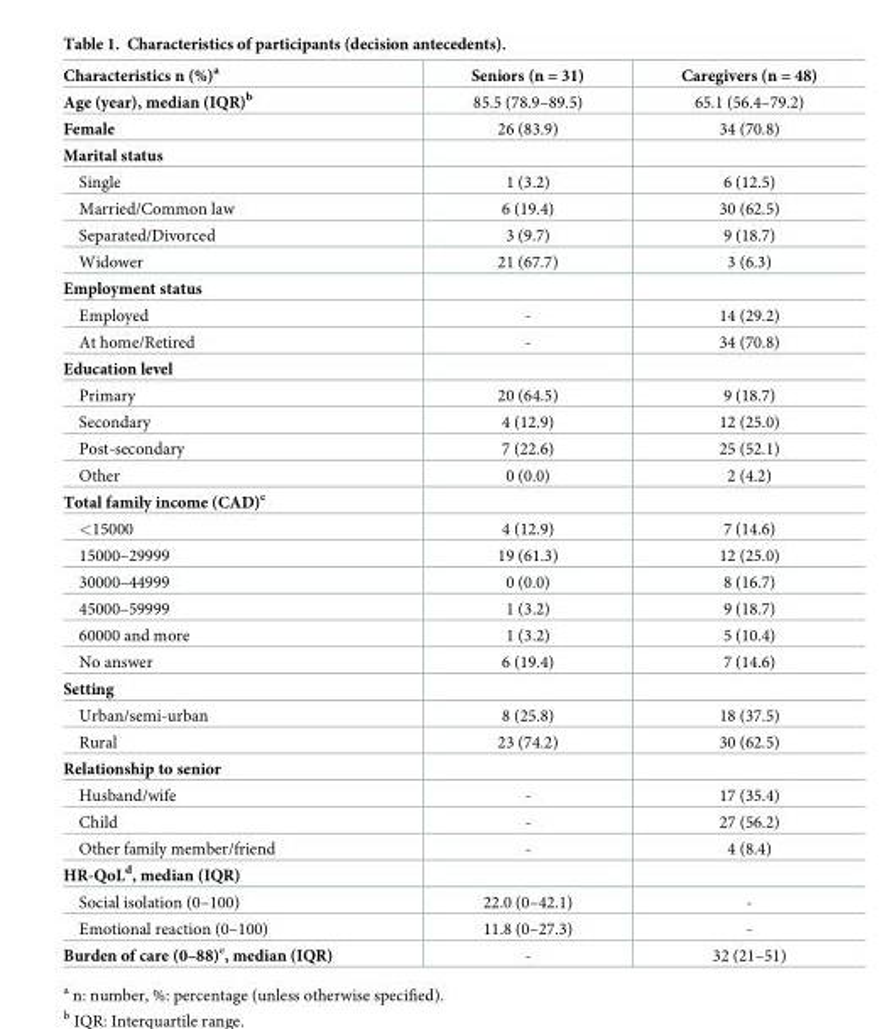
<table><thead><tr><td>Characteristics n (%)<sup>a</sup></td><td>Seniors (n = 31)</td><td>Caregivers (n = 48)</td></tr></thead><tbody><tr><td>Age (year), median (IQR)<sup>b</sup></td><td>85.5 (78.9–89.5)</td><td>65.1 (56.4–79.2)</td></tr><tr><td>Female</td><td>26 (83.9)</td><td>34 (70.8)</td></tr><tr><td colspan="3">Marital status</td></tr><tr><td>Single</td><td>1 (3.2)</td><td>6 (12.5)</td></tr><tr><td>Married/Common law</td><td>6 (19.4)</td><td>30 (62.5)</td></tr><tr><td>Separated/Divorced</td><td>3 (9.7)</td><td>9 (18.7)</td></tr><tr><td>Widower</td><td>21 (67.7)</td><td>3 (6.3)</td></tr><tr><td colspan="3">Employment status</td></tr><tr><td>Employed</td><td>-</td><td>14 (29.2)</td></tr><tr><td>At home/Retired</td><td>-</td><td>34 (70.8)</td></tr><tr><td colspan="3">Education level</td></tr><tr><td>Primary</td><td>20 (64.5)</td><td>9 (18.7)</td></tr><tr><td>Secondary</td><td>4 (12.9)</td><td>12 (25.0)</td></tr><tr><td>Post-secondary</td><td>7 (22.6)</td><td>25 (52.1)</td></tr><tr><td>Other</td><td>0 (0.0)</td><td>2 (4.2)</td></tr><tr><td colspan="3">Total family income (CAD)<sup>c</sup></td></tr><tr><td>&lt;15000</td><td>4 (12.9)</td><td>7 (14.6)</td></tr><tr><td>15000–29999</td><td>19 (61.3)</td><td>12 (25.0)</td></tr><tr><td>30000–44999</td><td>0 (0.0)</td><td>8 (16.7)</td></tr><tr><td>45000–59999</td><td>1 (3.2)</td><td>9 (18.7)</td></tr><tr><td>60000 and more</td><td>1 (3.2)</td><td>5 (10.4)</td></tr><tr><td>No answer</td><td>6 (19.4)</td><td>7 (14.6)</td></tr><tr><td colspan="3">Setting</td></tr><tr><td>Urban/semi-urban</td><td>8 (25.8)</td><td>18 (37.5)</td></tr><tr><td>Rural</td><td>23 (74.2)</td><td>30 (62.5)</td></tr><tr><td colspan="3">Relationship to senior</td></tr><tr><td>Husband/wife</td><td>-</td><td>17 (35.4)</td></tr><tr><td>Child</td><td>-</td><td>27 (56.2)</td></tr><tr><td>Other family member/friend</td><td>-</td><td>4 (8.4)</td></tr><tr><td colspan="3">HR-QoL<sup>d</sup>, median (IQR)</td></tr><tr><td>Social isolation (0–100)</td><td>22.0 (0–42.1)</td><td>-</td></tr><tr><td>Emotional reaction (0–100)</td><td>11.8 (0–27.3)</td><td>-</td></tr><tr><td>Burden of care (0–88)<sup>e</sup>, median (IQR)</td><td>-</td><td>32 (21–51)</td></tr></tbody></table>